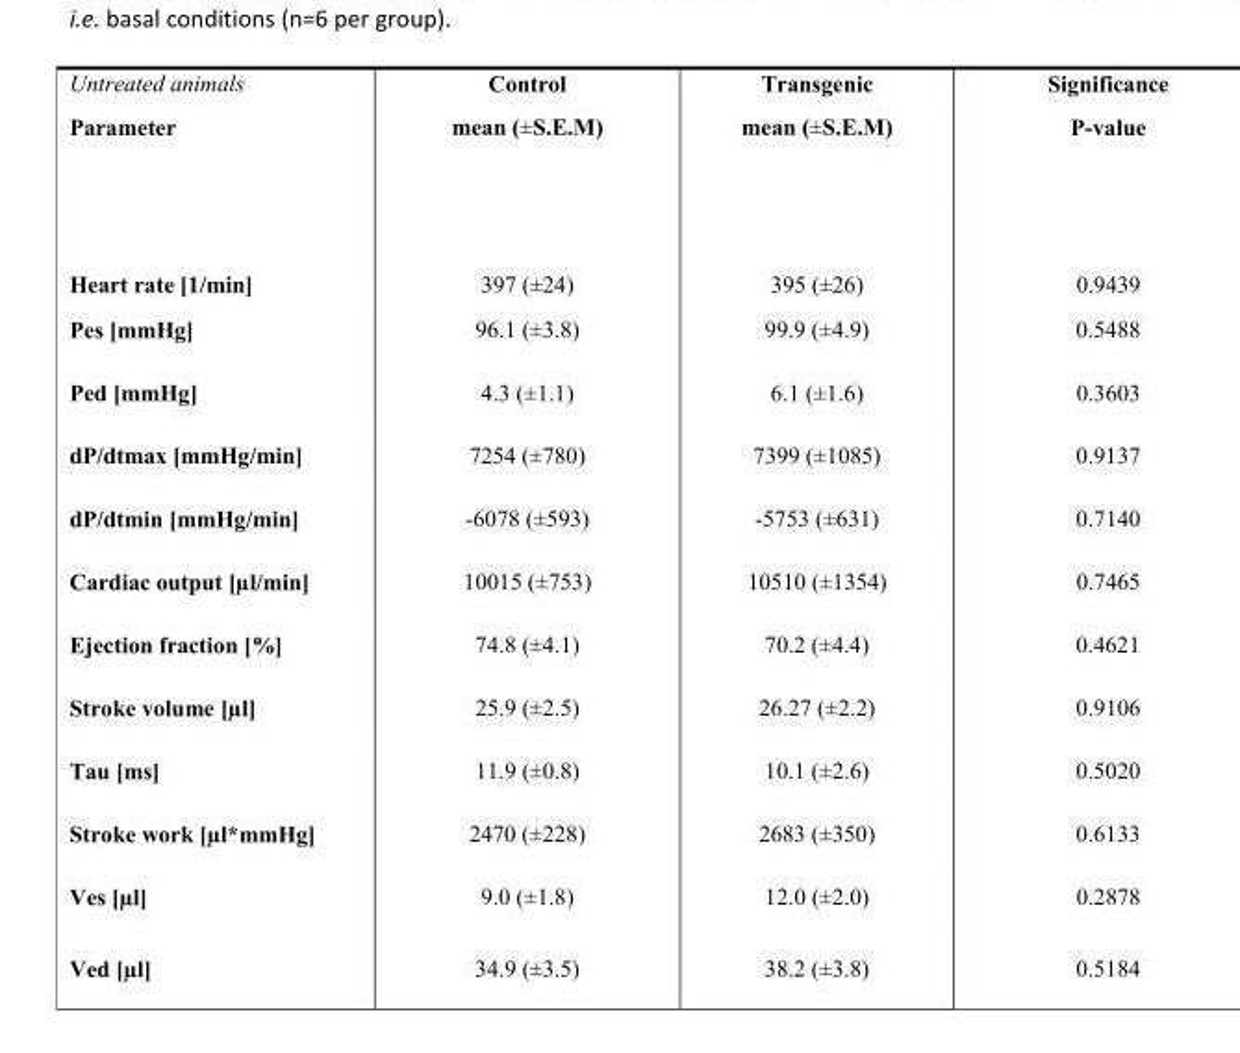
<table><thead><tr><td rowspan="2">Untreated animals Parameter</td><td rowspan="2">Control mean (±S.E.M)</td><td rowspan="2">Transgenic mean (±S.E.M)</td><td rowspan="2">Significance P-value</td></tr><tr></tr></thead><tbody><tr><td>Heart rate [1/min]</td><td>397 (±24)</td><td>395 (±26)</td><td>0.9439</td></tr><tr><td>Pes [mmHg]</td><td>96.1 (±3.8)</td><td>99.9 (±4.9)</td><td>0.5488</td></tr><tr><td>Ped [mmHg]</td><td>4.3 (±1.1)</td><td>6.1 (±1.6)</td><td>0.3603</td></tr><tr><td>dP/dtmax [mmHg/min]</td><td>7254 (±780)</td><td>7399 (±1085)</td><td>0.9137</td></tr><tr><td>dP/dtmin [mmHg/min]</td><td>-6078 (±593)</td><td>-5753 (±631)</td><td>0.7140</td></tr><tr><td>Cardiac output [µl/min]</td><td>10015 (±753)</td><td>10510 (±1354)</td><td>0.7465</td></tr><tr><td>Ejection fraction [%]</td><td>74.8 (±4.1)</td><td>70.2 (±4.4)</td><td>0.4621</td></tr><tr><td>Stroke volume [µl]</td><td>25.9 (±2.5)</td><td>26.27 (±2.2)</td><td>0.9106</td></tr><tr><td>Tau [ms]</td><td>11.9 (±0.8)</td><td>10.1 (±2.6)</td><td>0.5020</td></tr><tr><td>Stroke work [µl*mmHg]</td><td>2470 (±228)</td><td>2683 (±350)</td><td>0.6133</td></tr><tr><td>Ves [µl]</td><td>9.0 (±1.8)</td><td>12.0 (±2.0)</td><td>0.2878</td></tr><tr><td>Ved [µl]</td><td>34.9 (±3.5)</td><td>38.2 (±3.8)</td><td>0.5184</td></tr></tbody></table>